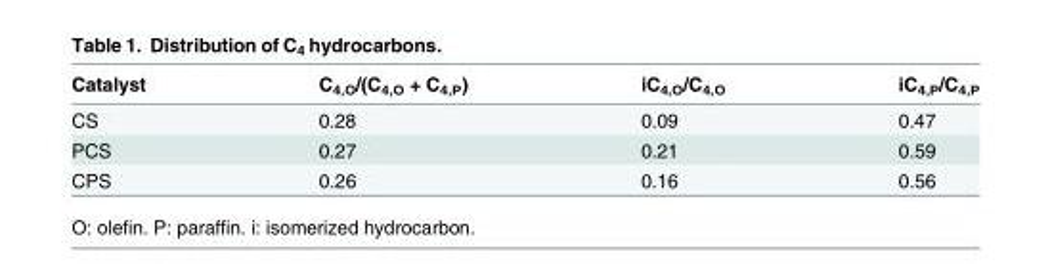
<table><thead><tr><td>Catalyst</td><td>C<sub>4,O</sub>/(C<sub>4,O</sub> + C<sub>4,P</sub>)</td><td>iC<sub>4,O</sub>/C<sub>4,O</sub></td><td>iC<sub>4,P</sub>/C<sub>4,P</sub></td></tr></thead><tbody><tr><td>CS</td><td>0.28</td><td>0.09</td><td>0.47</td></tr><tr><td>PCS</td><td>0.27</td><td>0.21</td><td>0.59</td></tr><tr><td>CPS</td><td>0.26</td><td>0.16</td><td>0.56</td></tr></tbody></table>